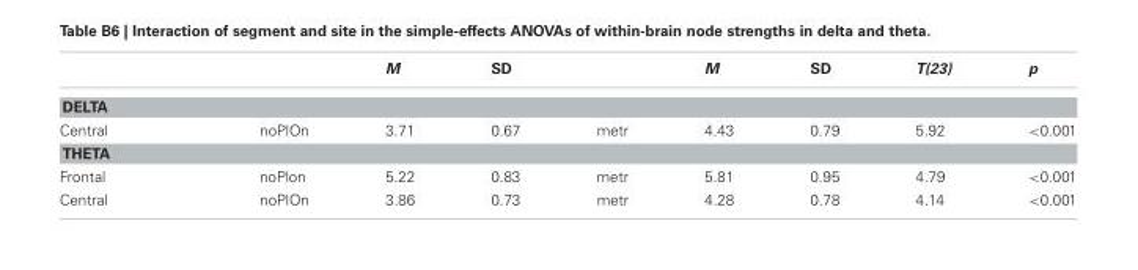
<table><thead><tr><td></td><td></td><td>M</td><td>SD</td><td></td><td>M</td><td>SD</td><td>T(23)</td><td>p</td></tr></thead><tbody><tr><td colspan="9">DELTA</td></tr><tr><td>Central</td><td>noPlOn</td><td>3.71</td><td>0.67</td><td>metr</td><td>4.43</td><td>0.79</td><td>5.92</td><td>&lt;0.001</td></tr><tr><td colspan="9">THETA</td></tr><tr><td>Frontal</td><td>noPlon</td><td>5.22</td><td>0.83</td><td>metr</td><td>5.81</td><td>0.95</td><td>4.79</td><td>&lt;0.001</td></tr><tr><td>Central</td><td>noPlOn</td><td>3.86</td><td>0.73</td><td>metr</td><td>4.28</td><td>0.78</td><td>4.14</td><td>&lt;0.001</td></tr></tbody></table>